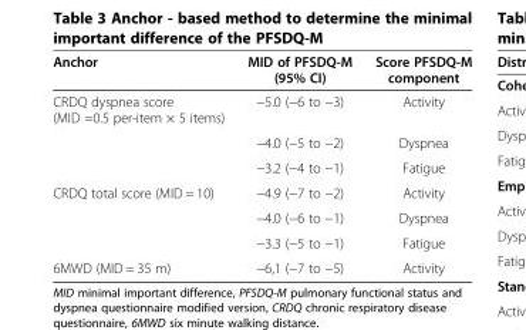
<table><thead><tr><td>Anchor</td><td>MID of PFSDQ-M (95% CI)</td><td>Score PFSDQ-M component</td></tr></thead><tbody><tr><td rowspan="3">CRDQ dyspnea score (MID =0.5 per-item × 5 items)</td><td>−5.0 (−6 to −3)</td><td>Activity</td></tr><tr><td>−4.0 (−5 to −2)</td><td>Dyspnea</td></tr><tr><td>−3.2 (−4 to −1)</td><td>Fatigue</td></tr><tr><td rowspan="3">CRDQ total score (MID = 10)</td><td>−4.9 (−7 to −2)</td><td>Activity</td></tr><tr><td>−4.0 (−6 to −1)</td><td>Dyspnea</td></tr><tr><td>−3.3 (−5 to −1)</td><td>Fatigue</td></tr><tr><td>6MWD (MID = 35 m)</td><td>−6,1 (−7 to −5)</td><td>Activity</td></tr></tbody></table>